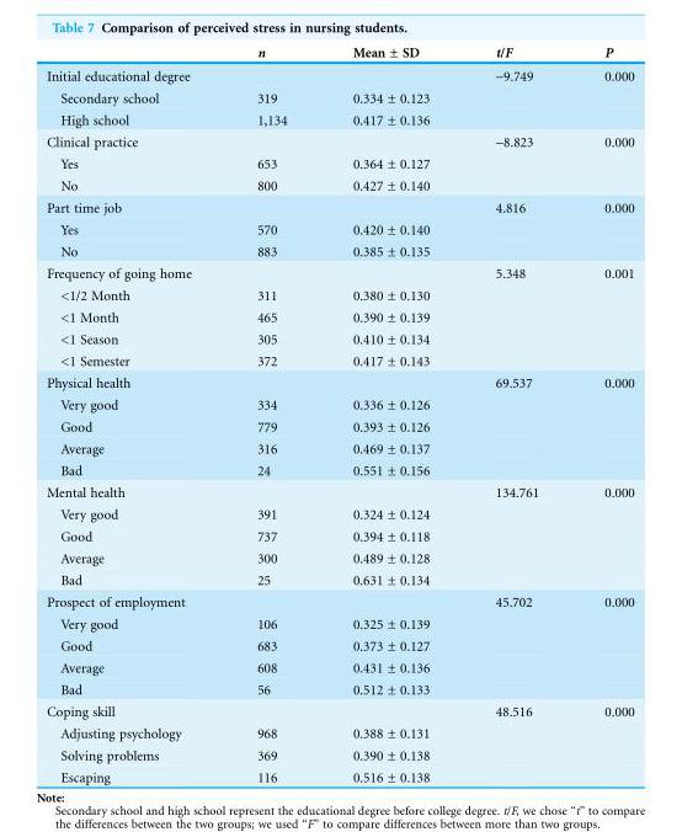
<table><thead><tr><td></td><td>n</td><td>Mean ± SD</td><td>t/F</td><td>P</td></tr></thead><tbody><tr><td>Initial educational degree</td><td></td><td></td><td>-9.749</td><td>0.000</td></tr><tr><td>Secondary school</td><td>319</td><td>0.334 ± 0.123</td><td></td><td></td></tr><tr><td>High school</td><td>1,134</td><td>0.417 ± 0.136</td><td></td><td></td></tr><tr><td>Clinical practice</td><td></td><td></td><td>-8.823</td><td>0.000</td></tr><tr><td>Yes</td><td>653</td><td>0.364 ± 0.127</td><td></td><td></td></tr><tr><td>No</td><td>800</td><td>0.427 ± 0.140</td><td></td><td></td></tr><tr><td>Part time job</td><td></td><td></td><td>4.816</td><td>0.000</td></tr><tr><td>Yes</td><td>570</td><td>0.420 ± 0.140</td><td></td><td></td></tr><tr><td>No</td><td>883</td><td>0.385 ± 0.135</td><td></td><td></td></tr><tr><td>Frequency of going home</td><td></td><td></td><td>5.348</td><td>0.001</td></tr><tr><td>&lt;1/2 Month</td><td>311</td><td>0.380 ± 0.130</td><td></td><td></td></tr><tr><td>&lt;1 Month</td><td>465</td><td>0.390 ± 0.139</td><td></td><td></td></tr><tr><td>&lt;1 Season</td><td>305</td><td>0.410 ± 0.134</td><td></td><td></td></tr><tr><td>&lt;1 Semester</td><td>372</td><td>0.417 ± 0.143</td><td></td><td></td></tr><tr><td>Physical health</td><td></td><td></td><td>69.537</td><td>0.000</td></tr><tr><td>Very good</td><td>334</td><td>0.336 ± 0.126</td><td></td><td></td></tr><tr><td>Good</td><td>779</td><td>0.393 ± 0.126</td><td></td><td></td></tr><tr><td>Average</td><td>316</td><td>0.469 ± 0.137</td><td></td><td></td></tr><tr><td>Bad</td><td>24</td><td>0.551 ± 0.156</td><td></td><td></td></tr><tr><td>Mental health</td><td></td><td></td><td>134.761</td><td>0.000</td></tr><tr><td>Very good</td><td>391</td><td>0.324 ± 0.124</td><td></td><td></td></tr><tr><td>Good</td><td>737</td><td>0.394 ± 0.118</td><td></td><td></td></tr><tr><td>Average</td><td>300</td><td>0.489 ± 0.128</td><td></td><td></td></tr><tr><td>Bad</td><td>25</td><td>0.631 ± 0.134</td><td></td><td></td></tr><tr><td>Prospect of employment</td><td></td><td></td><td>45.702</td><td>0.000</td></tr><tr><td>Very good</td><td>106</td><td>0.325 ± 0.139</td><td></td><td></td></tr><tr><td>Good</td><td>683</td><td>0.373 ± 0.127</td><td></td><td></td></tr><tr><td>Average</td><td>608</td><td>0.431 ± 0.136</td><td></td><td></td></tr><tr><td>Bad</td><td>56</td><td>0.512 ± 0.133</td><td></td><td></td></tr><tr><td>Coping skill</td><td></td><td></td><td>48.516</td><td>0.000</td></tr><tr><td>Adjusting psychology</td><td>968</td><td>0.388 ± 0.131</td><td></td><td></td></tr><tr><td>Solving problems</td><td>369</td><td>0.390 ± 0.138</td><td></td><td></td></tr><tr><td>Escaping</td><td>116</td><td>0.516 ± 0.138</td><td></td><td></td></tr></tbody></table>